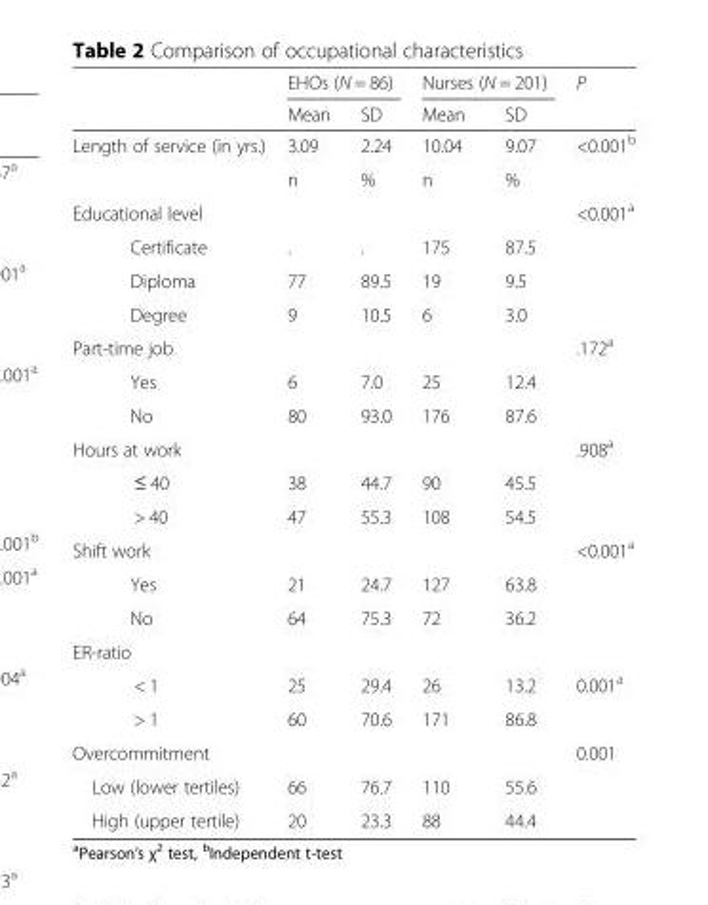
<table><thead><tr><td rowspan="2"></td><td colspan="2">EHOs (N = 86)</td><td colspan="2">Nurses (N = 201)</td><td rowspan="2">P</td></tr><tr><td>Mean</td><td>SD</td><td>Mean</td><td>SD</td></tr></thead><tbody><tr><td rowspan="2">Length of service (in yrs.)</td><td>3.09</td><td>2.24</td><td>10.04</td><td>9.07</td><td>&lt;0.001<sup>b</sup></td></tr><tr><td>n</td><td>%</td><td>n</td><td>%</td><td></td></tr><tr><td>Educational level</td><td></td><td></td><td></td><td></td><td>&lt;0.001<sup>a</sup></td></tr><tr><td>Certificate</td><td>.</td><td>.</td><td>175</td><td>87.5</td><td></td></tr><tr><td>Diploma</td><td>77</td><td>89.5</td><td>19</td><td>9.5</td><td></td></tr><tr><td>Degree</td><td>9</td><td>10.5</td><td>6</td><td>3.0</td><td></td></tr><tr><td>Part-time job</td><td></td><td></td><td></td><td></td><td>.172<sup>a</sup></td></tr><tr><td>Yes</td><td>6</td><td>7.0</td><td>25</td><td>12.4</td><td></td></tr><tr><td>No</td><td>80</td><td>93.0</td><td>176</td><td>87.6</td><td></td></tr><tr><td>Hours at work</td><td></td><td></td><td></td><td></td><td>.908<sup>a</sup></td></tr><tr><td>≤ 40</td><td>38</td><td>44.7</td><td>90</td><td>45.5</td><td></td></tr><tr><td>&gt; 40</td><td>47</td><td>55.3</td><td>108</td><td>54.5</td><td></td></tr><tr><td>Shift work</td><td></td><td></td><td></td><td></td><td>&lt;0.001<sup>a</sup></td></tr><tr><td>Yes</td><td>21</td><td>24.7</td><td>127</td><td>63.8</td><td></td></tr><tr><td>No</td><td>64</td><td>75.3</td><td>72</td><td>36.2</td><td></td></tr><tr><td colspan="6">ER-ratio</td></tr><tr><td>&lt; 1</td><td>25</td><td>29.4</td><td>26</td><td>13.2</td><td>0.001<sup>a</sup></td></tr><tr><td>&gt; 1</td><td>60</td><td>70.6</td><td>171</td><td>86.8</td><td></td></tr><tr><td>Overcommitment</td><td></td><td></td><td></td><td></td><td>0.001</td></tr><tr><td>Low (lower tertiles)</td><td>66</td><td>76.7</td><td>110</td><td>55.6</td><td></td></tr><tr><td>High (upper tertile)</td><td>20</td><td>23.3</td><td>88</td><td>44.4</td><td></td></tr></tbody></table>